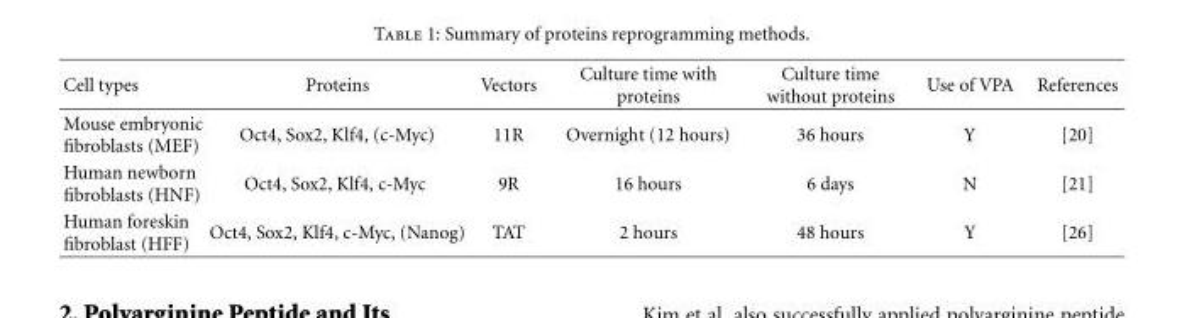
<table><thead><tr><td>Cell types</td><td>Proteins</td><td>Vectors</td><td>Culture time with proteins</td><td>Culture time without proteins</td><td>Use of VPA</td><td>References</td></tr></thead><tbody><tr><td>Mouse embryonic fibroblasts (MEF)</td><td>Oct4, Sox2, Klf4, (c-Myc)</td><td>11R</td><td>Overnight (12 hours)</td><td>36 hours</td><td>Y</td><td>[20]</td></tr><tr><td>Human newborn fibroblasts (HNF)</td><td>Oct4, Sox2, Klf4, c-Myc</td><td>9R</td><td>16 hours</td><td>6 days</td><td>N</td><td>[21]</td></tr><tr><td>Human foreskin fibroblast (HFF)</td><td>Oct4, Sox2, Klf4, c-Myc, (Nanog)</td><td>TAT</td><td>2 hours</td><td>48 hours</td><td>Y</td><td>[26]</td></tr></tbody></table>